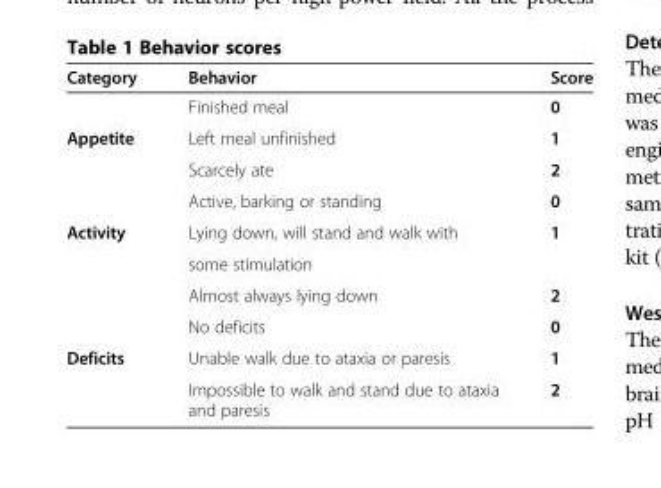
<table><thead><tr><td>Category</td><td>Behavior</td><td>Score</td></tr></thead><tbody><tr><td></td><td>Finished meal</td><td>0</td></tr><tr><td rowspan="3">Appetite</td><td>Left meal unfinished</td><td>1</td></tr><tr><td>Scarcely ate</td><td>2</td></tr><tr><td>Active, barking or standing</td><td>0</td></tr><tr><td rowspan="4">Activity</td><td>Lying down, will stand and walk with</td><td>1</td></tr><tr><td>some stimulation</td><td></td></tr><tr><td>Almost always lying down</td><td>2</td></tr><tr><td>No deficits</td><td>0</td></tr><tr><td rowspan="2">Deficits</td><td>Unable walk due to ataxia or paresis</td><td>1</td></tr><tr><td>Impossible to walk and stand due to ataxia and paresis</td><td>2</td></tr></tbody></table>